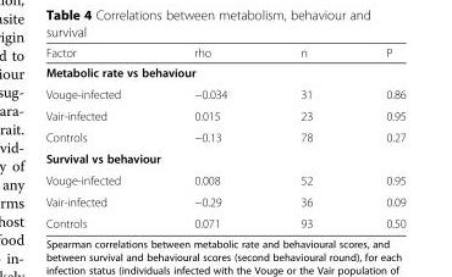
<table><thead><tr><td>Factor</td><td>rho</td><td>n</td><td>P</td></tr></thead><tbody><tr><td colspan="4">Metabolic rate vs behaviour</td></tr><tr><td>Vouge-infected</td><td>−0.034</td><td>31</td><td>0.86</td></tr><tr><td>Vair-infected</td><td>0.015</td><td>23</td><td>0.95</td></tr><tr><td>Controls</td><td>−0.13</td><td>78</td><td>0.27</td></tr><tr><td colspan="4">Survival vs behaviour</td></tr><tr><td>Vouge-infected</td><td>0.008</td><td>52</td><td>0.95</td></tr><tr><td>Vair-infected</td><td>−0.29</td><td>36</td><td>0.09</td></tr><tr><td>Controls</td><td>0.071</td><td>93</td><td>0.50</td></tr></tbody></table>